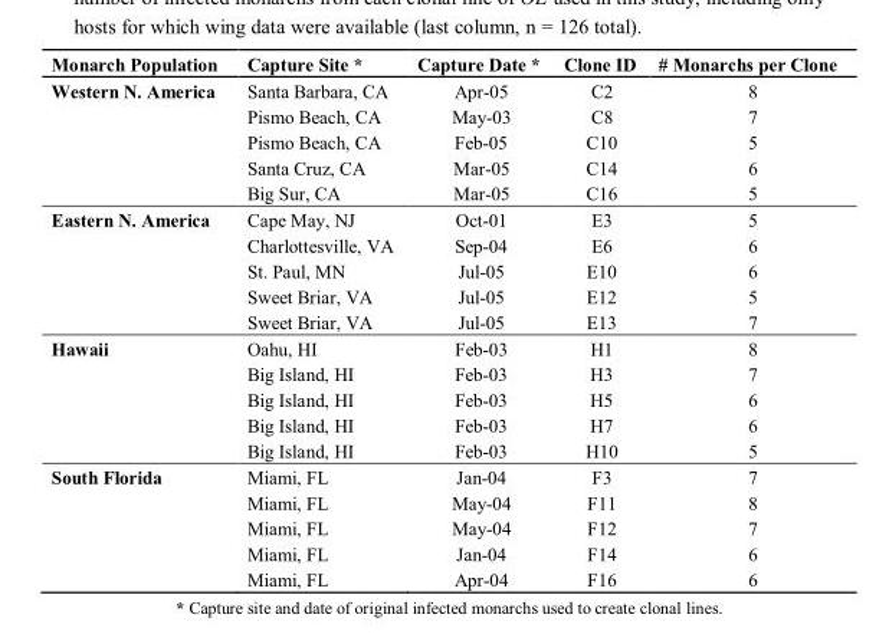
<table><thead><tr><td>Monarch Population</td><td>Capture Site *</td><td>Capture Date *</td><td>Clone ID</td><td># Monarchs per Clone</td></tr></thead><tbody><tr><td rowspan="5">Western N. America</td><td>Santa Barbara, CA</td><td>Apr-05</td><td>C2</td><td>8</td></tr><tr><td>Pismo Beach, CA</td><td>May-03</td><td>C8</td><td>7</td></tr><tr><td>Pismo Beach, CA</td><td>Feb-05</td><td>C10</td><td>5</td></tr><tr><td>Santa Cruz, CA</td><td>Mar-05</td><td>C14</td><td>6</td></tr><tr><td>Big Sur, CA</td><td>Mar-05</td><td>C16</td><td>5</td></tr><tr><td rowspan="5">Eastern N. America</td><td>Cape May, NJ</td><td>Oct-01</td><td>E3</td><td>5</td></tr><tr><td>Charlottesville, VA</td><td>Sep-04</td><td>E6</td><td>6</td></tr><tr><td>St. Paul, MN</td><td>Jul-05</td><td>E10</td><td>6</td></tr><tr><td>Sweet Briar, VA</td><td>Jul-05</td><td>E12</td><td>5</td></tr><tr><td>Sweet Briar, VA</td><td>Jul-05</td><td>E13</td><td>7</td></tr><tr><td rowspan="5">Hawaii</td><td>Oahu, HI</td><td>Feb-03</td><td>H1</td><td>8</td></tr><tr><td>Big Island, HI</td><td>Feb-03</td><td>H3</td><td>7</td></tr><tr><td>Big Island, HI</td><td>Feb-03</td><td>H5</td><td>6</td></tr><tr><td>Big Island, HI</td><td>Feb-03</td><td>H7</td><td>6</td></tr><tr><td>Big Island, HI</td><td>Feb-03</td><td>H10</td><td>5</td></tr><tr><td rowspan="5">South Florida</td><td>Miami, FL</td><td>Jan-04</td><td>F3</td><td>7</td></tr><tr><td>Miami, FL</td><td>May-04</td><td>F11</td><td>8</td></tr><tr><td>Miami, FL</td><td>May-04</td><td>F12</td><td>7</td></tr><tr><td>Miami, FL</td><td>Jan-04</td><td>F14</td><td>6</td></tr><tr><td>Miami, FL</td><td>Apr-04</td><td>F16</td><td>6</td></tr></tbody></table>